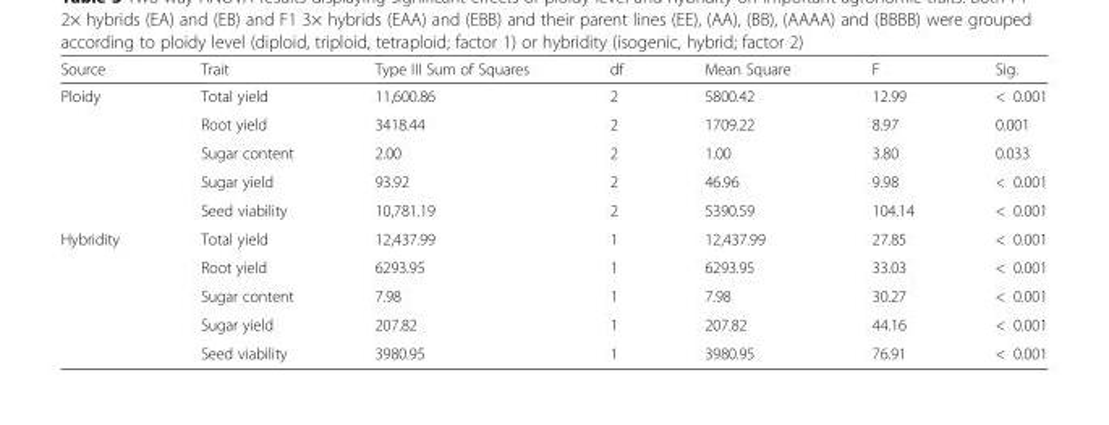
<table><thead><tr><td>Source</td><td>Trait</td><td>Type III Sum of Squares</td><td>df</td><td>Mean Square</td><td>F</td><td>Sig.</td></tr></thead><tbody><tr><td rowspan="5">Ploidy</td><td>Total yield</td><td>11,600.86</td><td>2</td><td>5800.42</td><td>12.99</td><td>&lt; 0.001</td></tr><tr><td>Root yield</td><td>3418.44</td><td>2</td><td>1709.22</td><td>8.97</td><td>0.001</td></tr><tr><td>Sugar content</td><td>2.00</td><td>2</td><td>1.00</td><td>3.80</td><td>0.033</td></tr><tr><td>Sugar yield</td><td>93.92</td><td>2</td><td>46.96</td><td>9.98</td><td>&lt; 0.001</td></tr><tr><td>Seed viability</td><td>10,781.19</td><td>2</td><td>5390.59</td><td>104.14</td><td>&lt; 0.001</td></tr><tr><td rowspan="5">Hybridity</td><td>Total yield</td><td>12,437.99</td><td>1</td><td>12,437.99</td><td>27.85</td><td>&lt; 0.001</td></tr><tr><td>Root yield</td><td>6293.95</td><td>1</td><td>6293.95</td><td>33.03</td><td>&lt; 0.001</td></tr><tr><td>Sugar content</td><td>7.98</td><td>1</td><td>7.98</td><td>30.27</td><td>&lt; 0.001</td></tr><tr><td>Sugar yield</td><td>207.82</td><td>1</td><td>207.82</td><td>44.16</td><td>&lt; 0.001</td></tr><tr><td>Seed viability</td><td>3980.95</td><td>1</td><td>3980.95</td><td>76.91</td><td>&lt; 0.001</td></tr></tbody></table>